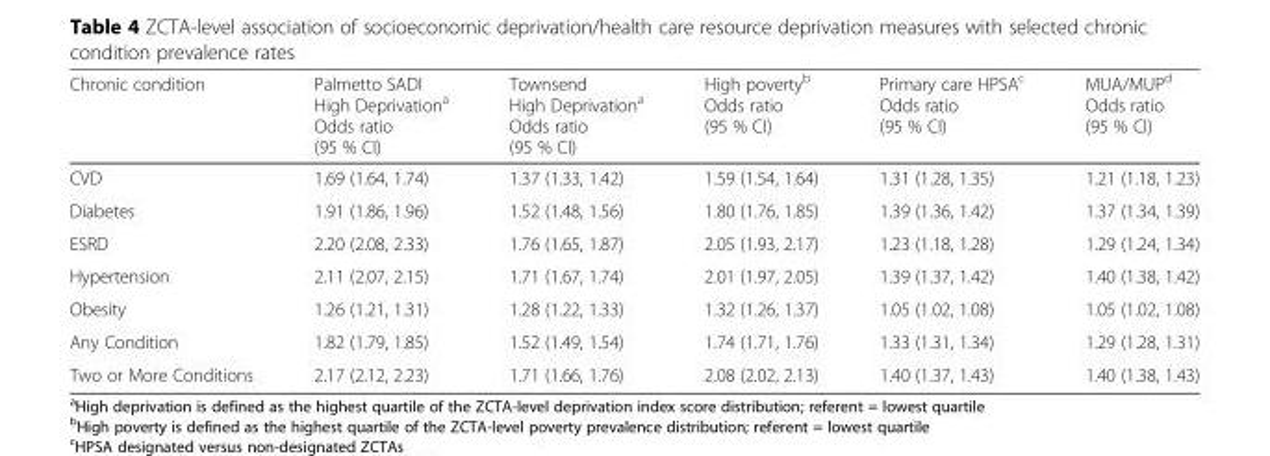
<table><thead><tr><td>Chronic condition</td><td>Palmetto SADI High Deprivation<sup>a</sup> Odds ratio (95 % CI)</td><td>Townsend High Deprivation<sup>a</sup> Odds ratio (95 % CI)</td><td>High poverty<sup>b</sup> Odds ratio (95 % CI)</td><td>Primary care HPSA<sup>c</sup> Odds ratio (95 % CI)</td><td>MUA/MUP<sup>d</sup> Odds ratio (95 % CI)</td></tr></thead><tbody><tr><td>CVD</td><td>1.69 (1.64, 1.74)</td><td>1.37 (1.33, 1.42)</td><td>1.59 (1.54, 1.64)</td><td>1.31 (1.28, 1.35)</td><td>1.21 (1.18, 1.23)</td></tr><tr><td>Diabetes</td><td>1.91 (1.86, 1.96)</td><td>1.52 (1.48, 1.56)</td><td>1.80 (1.76, 1.85)</td><td>1.39 (1.36, 1.42)</td><td>1.37 (1.34, 1.39)</td></tr><tr><td>ESRD</td><td>2.20 (2.08, 2.33)</td><td>1.76 (1.65, 1.87)</td><td>2.05 (1.93, 2.17)</td><td>1.23 (1.18, 1.28)</td><td>1.29 (1.24, 1.34)</td></tr><tr><td>Hypertension</td><td>2.11 (2.07, 2.15)</td><td>1.71 (1.67, 1.74)</td><td>2.01 (1.97, 2.05)</td><td>1.39 (1.37, 1.42)</td><td>1.40 (1.38, 1.42)</td></tr><tr><td>Obesity</td><td>1.26 (1.21, 1.31)</td><td>1.28 (1.22, 1.33)</td><td>1.32 (1.26, 1.37)</td><td>1.05 (1.02, 1.08)</td><td>1.05 (1.02, 1.08)</td></tr><tr><td>Any Condition</td><td>1.82 (1.79, 1.85)</td><td>1.52 (1.49, 1.54)</td><td>1.74 (1.71, 1.76)</td><td>1.33 (1.31, 1.34)</td><td>1.29 (1.28, 1.31)</td></tr><tr><td>Two or More Conditions</td><td>2.17 (2.12, 2.23)</td><td>1.71 (1.66, 1.76)</td><td>2.08 (2.02, 2.13)</td><td>1.40 (1.37, 1.43)</td><td>1.40 (1.38, 1.43)</td></tr></tbody></table>